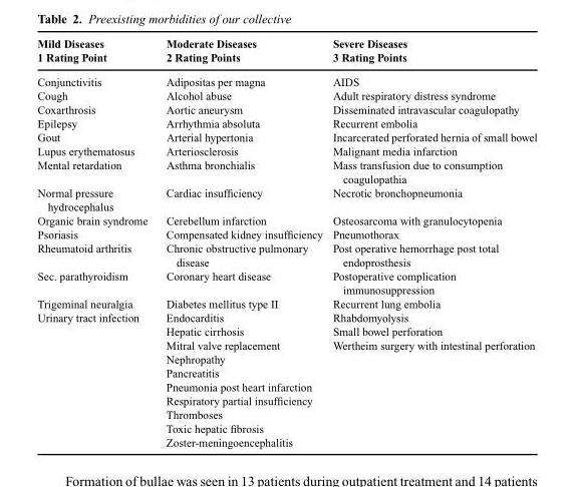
<table><thead><tr><td>Mild Diseases 1 Rating Point</td><td>Moderate Diseases 2 Rating Points</td><td>Severe Diseases 3 Rating Points</td></tr></thead><tbody><tr><td>Conjunctivitis</td><td>Adipositas per magna</td><td>AIDS</td></tr><tr><td>Cough</td><td>Alcohol abuse</td><td>Adult respiratory distress syndrome</td></tr><tr><td>Coxarthrosis</td><td>Aortic aneurysm</td><td>Disseminated intravascular coagulopathy</td></tr><tr><td>Epilepsy</td><td>Arrhythmia absoluta</td><td>Recurrent embolia</td></tr><tr><td>Gout</td><td>Arterial hypertonia</td><td>Incarcerated perforated hernia of small bowel</td></tr><tr><td>Lupus erythematosus</td><td>Arteriosclerosis</td><td>Malignant media infarction</td></tr><tr><td>Mental retardation</td><td>Asthma bronchialis</td><td>Mass transfusion due to consumption coagulopathia</td></tr><tr><td>Normal pressure hydrocephalus</td><td>Cardiac insufficiency</td><td>Necrotic bronchopneumonia</td></tr><tr><td>Organic brain syndrome</td><td>Cerebellum infarction</td><td>Osteosarcoma with granulocytopenia</td></tr><tr><td>Psoriasis</td><td>Compensated kidney insufficiency</td><td>Pneumothorax</td></tr><tr><td>Rheumatoid arthritis</td><td>Chronic obstructive pulmonary disease</td><td>Post operative hemorrhage post total endoprosthesis</td></tr><tr><td>Sec. parathyroidism</td><td>Coronary heart disease</td><td>Postoperative complication immunosuppression</td></tr><tr><td>Trigeminal neuralgia</td><td>Diabetes mellitus type II</td><td>Recurrent lung embolia</td></tr><tr><td rowspan="10">Urinary tract infection</td><td>Endocarditis</td><td>Rhabdomyolysis</td></tr><tr><td>Hepatic cirrhosis</td><td>Small bowel perforation</td></tr><tr><td>Mitral valve replacement</td><td>Wertheim surgery with intestinal perforation</td></tr><tr><td>Nephropathy</td><td></td></tr><tr><td>Pancreatitis</td><td></td></tr><tr><td>Pneumonia post heart infarction</td><td></td></tr><tr><td>Respiratory partial insufficiency</td><td></td></tr><tr><td>Thromboses</td><td></td></tr><tr><td>Toxic hepatic fibrosis</td><td></td></tr><tr><td>Zoster-meningoencephalitis</td><td></td></tr></tbody></table>